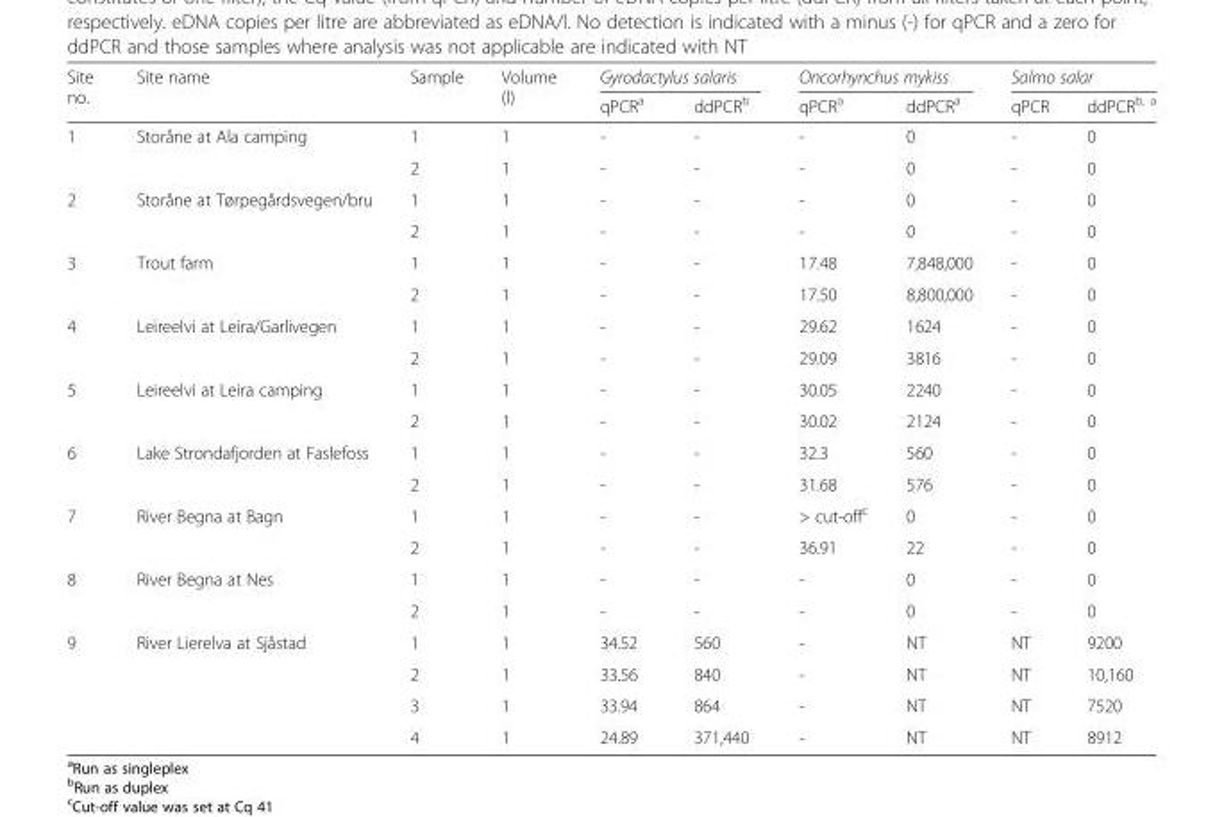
<table><thead><tr><td rowspan="2">Site no.</td><td rowspan="2">Site name</td><td rowspan="2">Sample</td><td rowspan="2">Volume (l)</td><td colspan="2">Gyrodactylus salaris</td><td colspan="2">Oncorhynchus mykiss</td><td colspan="2">Salmo salar</td></tr><tr><td>qPCR<sup>a</sup></td><td>ddPCR<sup>b</sup></td><td>qPCR<sup>a</sup></td><td>ddPCR<sup>a</sup></td><td>qPCR</td><td>ddPCR<sup>b, a</sup></td></tr></thead><tbody><tr><td rowspan="2">1</td><td rowspan="2">Storåne at Ala camping</td><td>1</td><td>1</td><td>-</td><td>-</td><td>-</td><td>0</td><td>-</td><td>0</td></tr><tr><td>2</td><td>1</td><td>-</td><td>-</td><td>-</td><td>0</td><td>-</td><td>0</td></tr><tr><td rowspan="2">2</td><td rowspan="2">Storåne at Tørpegårdsvegen/bru</td><td>1</td><td>1</td><td>-</td><td>-</td><td>-</td><td>0</td><td>-</td><td>0</td></tr><tr><td>2</td><td>1</td><td>-</td><td>-</td><td>-</td><td>0</td><td>-</td><td>0</td></tr><tr><td rowspan="2">3</td><td rowspan="2">Trout farm</td><td>1</td><td>1</td><td>-</td><td>-</td><td>17.48</td><td>7,848,000</td><td>-</td><td>0</td></tr><tr><td>2</td><td>1</td><td>-</td><td>-</td><td>17.50</td><td>8,800,000</td><td>-</td><td>0</td></tr><tr><td rowspan="2">4</td><td rowspan="2">Leireelvi at Leira/Garlivegen</td><td>1</td><td>1</td><td>-</td><td>-</td><td>29.62</td><td>1624</td><td>-</td><td>0</td></tr><tr><td>2</td><td>1</td><td>-</td><td>-</td><td>29.09</td><td>3816</td><td>-</td><td>0</td></tr><tr><td rowspan="2">5</td><td rowspan="2">Leireelvi at Leira camping</td><td>1</td><td>1</td><td>-</td><td>-</td><td>30.05</td><td>2240</td><td>-</td><td>0</td></tr><tr><td>2</td><td>1</td><td>-</td><td>-</td><td>30.02</td><td>2124</td><td>-</td><td>0</td></tr><tr><td rowspan="2">6</td><td rowspan="2">Lake Strondafjorden at Faslefoss</td><td>1</td><td>1</td><td>-</td><td>-</td><td>32.3</td><td>560</td><td>-</td><td>0</td></tr><tr><td>2</td><td>1</td><td>-</td><td>-</td><td>31.68</td><td>576</td><td>-</td><td>0</td></tr><tr><td rowspan="2">7</td><td rowspan="2">River Begna at Bagn</td><td>1</td><td>1</td><td>-</td><td>-</td><td>&gt; cut-off<sup>c</sup></td><td>0</td><td>-</td><td>0</td></tr><tr><td>2</td><td>1</td><td>-</td><td>-</td><td>36.91</td><td>22</td><td>-</td><td>0</td></tr><tr><td rowspan="2">8</td><td rowspan="2">River Begna at Nes</td><td>1</td><td>1</td><td>-</td><td>-</td><td>-</td><td>0</td><td>-</td><td>0</td></tr><tr><td>2</td><td>1</td><td>-</td><td>-</td><td>-</td><td>0</td><td>-</td><td>0</td></tr><tr><td rowspan="4">9</td><td rowspan="4">River Lierelva at Sjåstad</td><td>1</td><td>1</td><td>34.52</td><td>560</td><td>-</td><td>NT</td><td>NT</td><td>9200</td></tr><tr><td>2</td><td>1</td><td>33.56</td><td>840</td><td>-</td><td>NT</td><td>NT</td><td>10,160</td></tr><tr><td>3</td><td>1</td><td>33.94</td><td>864</td><td>-</td><td>NT</td><td>NT</td><td>7520</td></tr><tr><td>4</td><td>1</td><td>24.89</td><td>371,440</td><td>-</td><td>NT</td><td>NT</td><td>8912</td></tr></tbody></table>